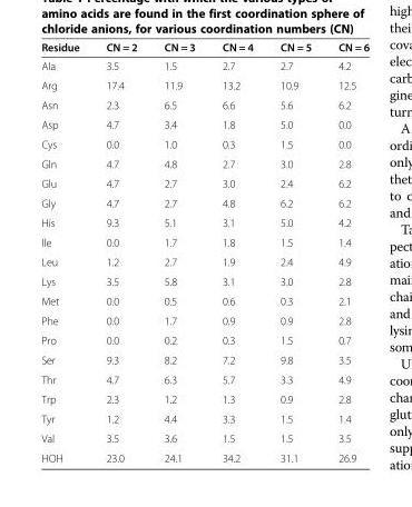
<table><thead><tr><td>Residue</td><td>CN = 2</td><td>CN = 3</td><td>CN = 4</td><td>CN = 5</td><td>CN = 6</td></tr></thead><tbody><tr><td>Ala</td><td>3.5</td><td>1.5</td><td>2.7</td><td>2.7</td><td>4.2</td></tr><tr><td>Arg</td><td>17.4</td><td>11.9</td><td>13.2</td><td>10.9</td><td>12.5</td></tr><tr><td>Asn</td><td>2.3</td><td>6.5</td><td>6.6</td><td>5.6</td><td>6.2</td></tr><tr><td>Asp</td><td>4.7</td><td>3.4</td><td>1.8</td><td>5.0</td><td>0.0</td></tr><tr><td>Cys</td><td>0.0</td><td>1.0</td><td>0.3</td><td>1.5</td><td>0.0</td></tr><tr><td>Gln</td><td>4.7</td><td>4.8</td><td>2.7</td><td>3.0</td><td>2.8</td></tr><tr><td>Glu</td><td>4.7</td><td>2.7</td><td>3.0</td><td>2.4</td><td>6.2</td></tr><tr><td>Gly</td><td>4.7</td><td>2.7</td><td>4.8</td><td>6.2</td><td>6.2</td></tr><tr><td>His</td><td>9.3</td><td>5.1</td><td>3.1</td><td>5.0</td><td>4.2</td></tr><tr><td>Ile</td><td>0.0</td><td>1.7</td><td>1.8</td><td>1.5</td><td>1.4</td></tr><tr><td>Leu</td><td>1.2</td><td>2.7</td><td>1.9</td><td>2.4</td><td>4.9</td></tr><tr><td>Lys</td><td>3.5</td><td>5.8</td><td>3.1</td><td>3.0</td><td>2.8</td></tr><tr><td>Met</td><td>0.0</td><td>0.5</td><td>0.6</td><td>0.3</td><td>2.1</td></tr><tr><td>Phe</td><td>0.0</td><td>1.7</td><td>0.9</td><td>0.9</td><td>2.8</td></tr><tr><td>Pro</td><td>0.0</td><td>0.2</td><td>0.3</td><td>1.5</td><td>0.7</td></tr><tr><td>Ser</td><td>9.3</td><td>8.2</td><td>7.2</td><td>9.8</td><td>3.5</td></tr><tr><td>Thr</td><td>4.7</td><td>6.3</td><td>5.7</td><td>3.3</td><td>4.9</td></tr><tr><td>Trp</td><td>2.3</td><td>1.2</td><td>1.3</td><td>0.9</td><td>2.8</td></tr><tr><td>Tyr</td><td>1.2</td><td>4.4</td><td>3.3</td><td>1.5</td><td>1.4</td></tr><tr><td>Val</td><td>3.5</td><td>3.6</td><td>1.5</td><td>1.5</td><td>3.5</td></tr><tr><td>HOH</td><td>23.0</td><td>24.1</td><td>34.2</td><td>31.1</td><td>26.9</td></tr></tbody></table>